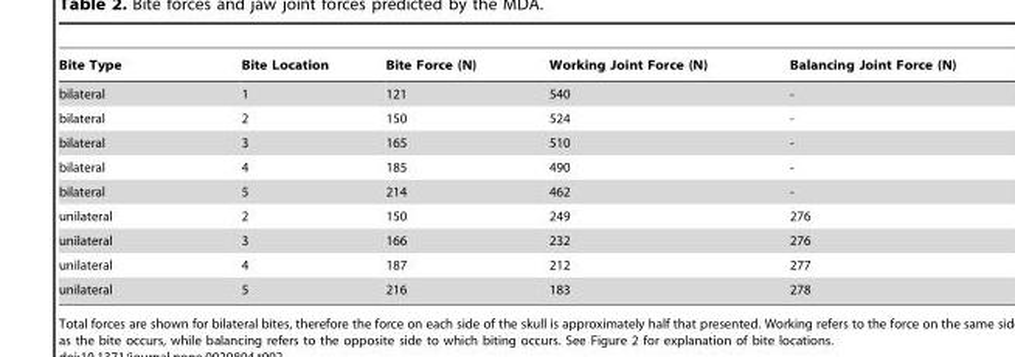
<table><thead><tr><td>Bite Type</td><td>Bite Location</td><td>Bite Force (N)</td><td>Working Joint Force (N)</td><td>Balancing Joint Force (N)</td></tr></thead><tbody><tr><td>bilateral</td><td>1</td><td>121</td><td>540</td><td>-</td></tr><tr><td>bilateral</td><td>2</td><td>150</td><td>524</td><td>-</td></tr><tr><td>bilateral</td><td>3</td><td>165</td><td>510</td><td>-</td></tr><tr><td>bilateral</td><td>4</td><td>185</td><td>490</td><td>-</td></tr><tr><td>bilateral</td><td>5</td><td>214</td><td>462</td><td>-</td></tr><tr><td>unilateral</td><td>2</td><td>150</td><td>249</td><td>276</td></tr><tr><td>unilateral</td><td>3</td><td>166</td><td>232</td><td>276</td></tr><tr><td>unilateral</td><td>4</td><td>187</td><td>212</td><td>277</td></tr><tr><td>unilateral</td><td>5</td><td>216</td><td>183</td><td>278</td></tr></tbody></table>